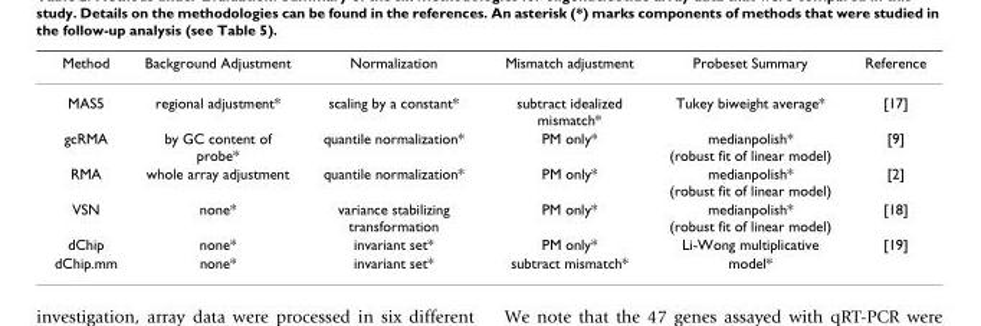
<table><thead><tr><td>Method</td><td>Background Adjustment</td><td>Normalization</td><td>Mismatch adjustment</td><td>Probeset Summary</td><td>Reference</td></tr></thead><tbody><tr><td>MAS5</td><td>regional adjustment*</td><td>scaling by a constant*</td><td>subtract idealized mismatch*</td><td>Tukey biweight average*</td><td>[17]</td></tr><tr><td>gcRMA</td><td>by GC content of probe*</td><td>quantile normalization*</td><td>PM only*</td><td>medianpolish* (robust fit of linear model)</td><td>[9]</td></tr><tr><td>RMA</td><td>whole array adjustment</td><td>quantile normalization*</td><td>PM only*</td><td>medianpolish* (robust fit of linear model)</td><td>[2]</td></tr><tr><td>VSN</td><td>none*</td><td>variance stabilizing transformation</td><td>PM only*</td><td>medianpolish* (robust fit of linear model)</td><td>[18]</td></tr><tr><td>dChip</td><td>none*</td><td>invariant set*</td><td>PM only*</td><td>Li-Wong multiplicative</td><td>[19]</td></tr><tr><td>dChip.mm</td><td>none*</td><td>invariant set*</td><td>subtract mismatch*</td><td>model*</td><td></td></tr></tbody></table>